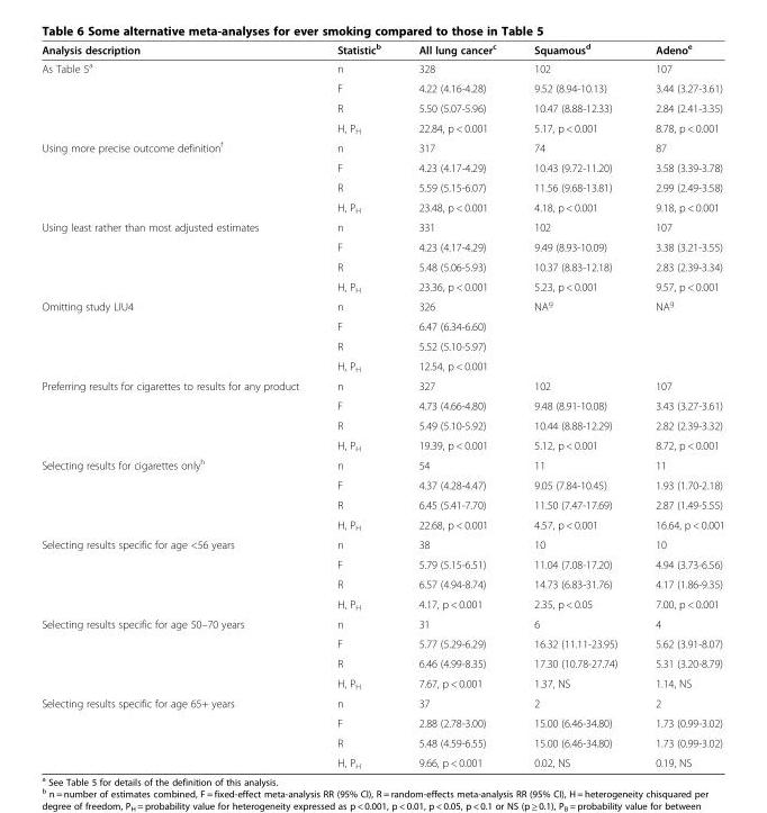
<table><thead><tr><td>Analysis description</td><td>Statistic<sup>b</sup></td><td>All lung cancer<sup>c</sup></td><td>Squamous<sup>d</sup></td><td>Adeno<sup>e</sup></td></tr></thead><tbody><tr><td rowspan="4">As Table 5<sup>a</sup></td><td>n</td><td>328</td><td>102</td><td>107</td></tr><tr><td>F</td><td>4.22 (4.16-4.28)</td><td>9.52 (8.94-10.13)</td><td>3.44 (3.27-3.61)</td></tr><tr><td>R</td><td>5.50 (5.07-5.96)</td><td>10.47 (8.88-12.33)</td><td>2.84 (2.41-3.35)</td></tr><tr><td>H, P<sub>H</sub></td><td>22.84, p &lt; 0.001</td><td>5.17, p &lt; 0.001</td><td>8.78, p &lt; 0.001</td></tr><tr><td rowspan="4">Using more precise outcome definition<sup>f</sup></td><td>n</td><td>317</td><td>74</td><td>87</td></tr><tr><td>F</td><td>4.23 (4.17-4.29)</td><td>10.43 (9.72-11.20)</td><td>3.58 (3.39-3.78)</td></tr><tr><td>R</td><td>5.59 (5.15-6.07)</td><td>11.56 (9.68-13.81)</td><td>2.99 (2.49-3.58)</td></tr><tr><td>H, P<sub>H</sub></td><td>23.48, p &lt; 0.001</td><td>4.18, p &lt; 0.001</td><td>9.18, p &lt; 0.001</td></tr><tr><td rowspan="4">Using least rather than most adjusted estimates</td><td>n</td><td>331</td><td>102</td><td>107</td></tr><tr><td>F</td><td>4.23 (4.17-4.29)</td><td>9.49 (8.93-10.09)</td><td>3.38 (3.21-3.55)</td></tr><tr><td>R</td><td>5.48 (5.06-5.93)</td><td>10.37 (8.83-12.18)</td><td>2.83 (2.39-3.34)</td></tr><tr><td>H, P<sub>H</sub></td><td>23.36, p &lt; 0.001</td><td>5.23, p &lt; 0.001</td><td>9.57, p &lt; 0.001</td></tr><tr><td rowspan="4">Omitting study LIU4</td><td>n</td><td>326</td><td>NA<sup>g</sup></td><td>NA<sup>g</sup></td></tr><tr><td>F</td><td>6.47 (6.34-6.60)</td><td></td><td></td></tr><tr><td>R</td><td>5.52 (5.10-5.97)</td><td></td><td></td></tr><tr><td>H, P<sub>H</sub></td><td>12.54, p &lt; 0.001</td><td></td><td></td></tr><tr><td rowspan="4">Preferring results for cigarettes to results for any product</td><td>n</td><td>327</td><td>102</td><td>107</td></tr><tr><td>F</td><td>4.73 (4.66-4.80)</td><td>9.48 (8.91-10.08)</td><td>3.43 (3.27-3.61)</td></tr><tr><td>R</td><td>5.49 (5.10-5.92)</td><td>10.44 (8.88-12.29)</td><td>2.82 (2.39-3.32)</td></tr><tr><td>H, P<sub>H</sub></td><td>19.39, p &lt; 0.001</td><td>5.12, p &lt; 0.001</td><td>8.72, p &lt; 0.001</td></tr><tr><td rowspan="4">Selecting results for cigarettes only<sup>h</sup></td><td>n</td><td>54</td><td>11</td><td>11</td></tr><tr><td>F</td><td>4.37 (4.28-4.47)</td><td>9.05 (7.84-10.45)</td><td>1.93 (1.70-2.18)</td></tr><tr><td>R</td><td>6.45 (5.41-7.70)</td><td>11.50 (7.47-17.69)</td><td>2.87 (1.49-5.55)</td></tr><tr><td>H, P<sub>H</sub></td><td>22.68, p &lt; 0.001</td><td>4.57, p &lt; 0.001</td><td>16.64, p &lt; 0.001</td></tr><tr><td rowspan="4">Selecting results specific for age &lt;56 years</td><td>n</td><td>38</td><td>10</td><td>10</td></tr><tr><td>F</td><td>5.79 (5.15-6.51)</td><td>11.04 (7.08-17.20)</td><td>4.94 (3.73-6.56)</td></tr><tr><td>R</td><td>6.57 (4.94-8.74)</td><td>14.73 (6.83-31.76)</td><td>4.17 (1.86-9.35)</td></tr><tr><td>H, P<sub>H</sub></td><td>4.17, p &lt; 0.001</td><td>2.35, p &lt; 0.05</td><td>7.00, p &lt; 0.001</td></tr><tr><td rowspan="4">Selecting results specific for age 50–70 years</td><td>n</td><td>31</td><td>6</td><td>4</td></tr><tr><td>F</td><td>5.77 (5.29-6.29)</td><td>16.32 (11.11-23.95)</td><td>5.62 (3.91-8.07)</td></tr><tr><td>R</td><td>6.46 (4.99-8.35)</td><td>17.30 (10.78-27.74)</td><td>5.31 (3.20-8.79)</td></tr><tr><td>H, P<sub>H</sub></td><td>7.67, p &lt; 0.001</td><td>1.37, NS</td><td>1.14, NS</td></tr><tr><td rowspan="4">Selecting results specific for age 65+ years</td><td>n</td><td>37</td><td>2</td><td>2</td></tr><tr><td>F</td><td>2.88 (2.78-3.00)</td><td>15.00 (6.46-34.80)</td><td>1.73 (0.99-3.02)</td></tr><tr><td>R</td><td>5.48 (4.59-6.55)</td><td>15.00 (6.46-34.80)</td><td>1.73 (0.99-3.02)</td></tr><tr><td>H, P<sub>H</sub></td><td>9.66, p &lt; 0.001</td><td>0.02, NS</td><td>0.19, NS</td></tr></tbody></table>